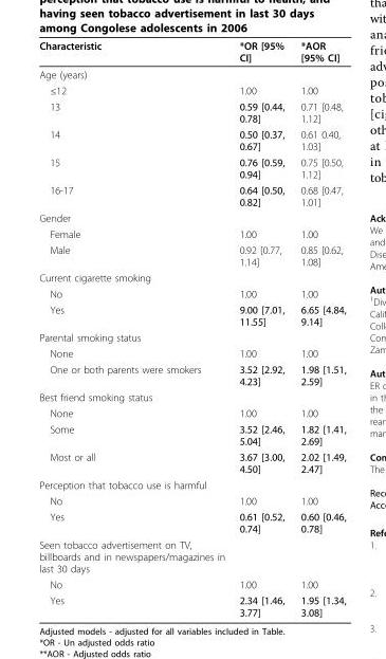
<table><thead><tr><td>Characteristic</td><td>*OR [95% CI]</td><td>*AOR [95% CI]</td></tr></thead><tbody><tr><td colspan="3">Age (years)</td></tr><tr><td>≤12</td><td>1.00</td><td>1.00</td></tr><tr><td>13</td><td>0.59 [0.44, 0.78]</td><td>0.71 [0.48, 1.12]</td></tr><tr><td>14</td><td>0.50 [0.37, 0.67]</td><td>0.61 0.40, 1.03]</td></tr><tr><td>15</td><td>0.76 [0.59, 0.94]</td><td>0.75 [0.50, 1.12]</td></tr><tr><td>16-17</td><td>0.64 [0.50, 0.82]</td><td>0.68 [0.47, 1.01]</td></tr><tr><td colspan="3">Gender</td></tr><tr><td>Female</td><td>1.00</td><td>1.00</td></tr><tr><td>Male</td><td>0.92 [0.77, 1.14]</td><td>0.85 [0.62, 1.08]</td></tr><tr><td colspan="3">Current cigarette smoking</td></tr><tr><td>No</td><td>1.00</td><td>1.00</td></tr><tr><td>Yes</td><td>9.00 [7.01, 11.55]</td><td>6.65 [4.84, 9.14]</td></tr><tr><td colspan="3">Parental smoking status</td></tr><tr><td>None</td><td>1.00</td><td>1.00</td></tr><tr><td>One or both parents were smokers</td><td>3.52 [2.92, 4.23]</td><td>1.98 [1.51, 2.59]</td></tr><tr><td colspan="3">Best friend smoking status</td></tr><tr><td>None</td><td>1.00</td><td>1.00</td></tr><tr><td>Some</td><td>3.52 [2.46, 5.04]</td><td>1.82 [1.41, 2.69]</td></tr><tr><td>Most or all</td><td>3.67 [3.00, 4.50]</td><td>2.02 [1.49, 2.47]</td></tr><tr><td colspan="3">Perception that tobacco use is harmful</td></tr><tr><td>No</td><td>1.00</td><td>1.00</td></tr><tr><td>Yes</td><td>0.61 [0.52, 0.74]</td><td>0.60 [0.46, 0.78]</td></tr><tr><td colspan="3">Seen tobacco advertisement on TV, billboards and in newspapers/magazines in last 30 days</td></tr><tr><td>No</td><td>1.00</td><td>1.00</td></tr><tr><td>Yes</td><td>2.34 [1.46, 3.77]</td><td>1.95 [1.34, 3.08]</td></tr></tbody></table>